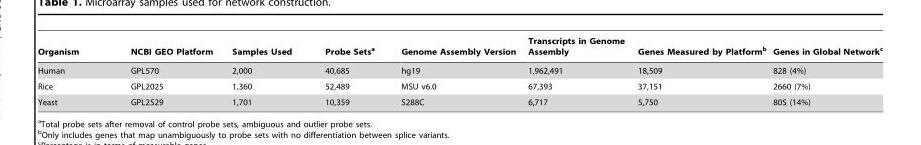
<table><thead><tr><td>Organism</td><td>NCBI GEO Platform</td><td>Samples Used</td><td>Probe Sets<sup>a</sup></td><td>Genome Assembly Version</td><td>Transcripts in Genome Assembly</td><td>Genes Measured by Platform<sup>b</sup></td><td>Genes in Global Network<sup>c</sup></td></tr></thead><tbody><tr><td>Human</td><td>GPL570</td><td>2,000</td><td>40,685</td><td>hg19</td><td>1,962,491</td><td>18,509</td><td>828 (4%)</td></tr><tr><td>Rice</td><td>GPL2025</td><td>1,360</td><td>52,489</td><td>MSU v6.0</td><td>67,393</td><td>37,151</td><td>2660 (7%)</td></tr><tr><td>Yeast</td><td>GPL2529</td><td>1,701</td><td>10,359</td><td>S288C</td><td>6,717</td><td>5,750</td><td>805 (14%)</td></tr></tbody></table>